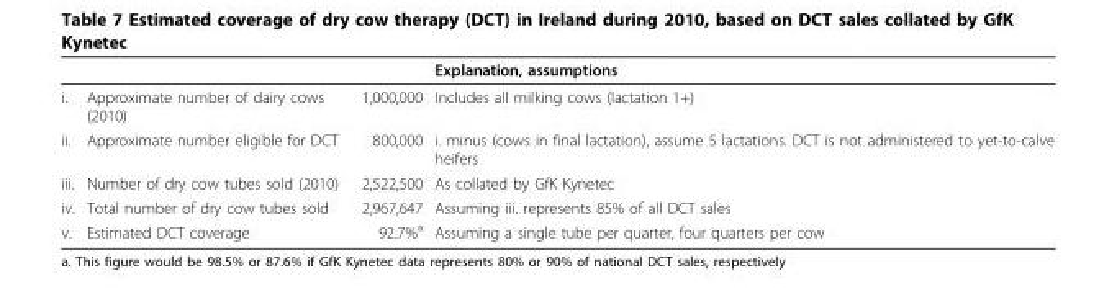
<table><thead><tr><td></td><td></td><td></td><td>Explanation, assumptions</td></tr></thead><tbody><tr><td>i.</td><td>Approximate number of dairy cows (2010)</td><td>1,000,000</td><td>Includes all milking cows (lactation 1+)</td></tr><tr><td>ii.</td><td>Approximate number eligible for DCT</td><td>800,000</td><td>i. minus (cows in final lactation), assume 5 lactations. DCT is not administered to yet-to-calve heifers</td></tr><tr><td>iii.</td><td>Number of dry cow tubes sold (2010)</td><td>2,522,500</td><td>As collated by GfK Kynetec</td></tr><tr><td>iv.</td><td>Total number of dry cow tubes sold</td><td>2,967,647</td><td>Assuming iii. represents 85% of all DCT sales</td></tr><tr><td>v.</td><td>Estimated DCT coverage</td><td>92.7%<sup>a</sup></td><td>Assuming a single tube per quarter, four quarters per cow</td></tr></tbody></table>